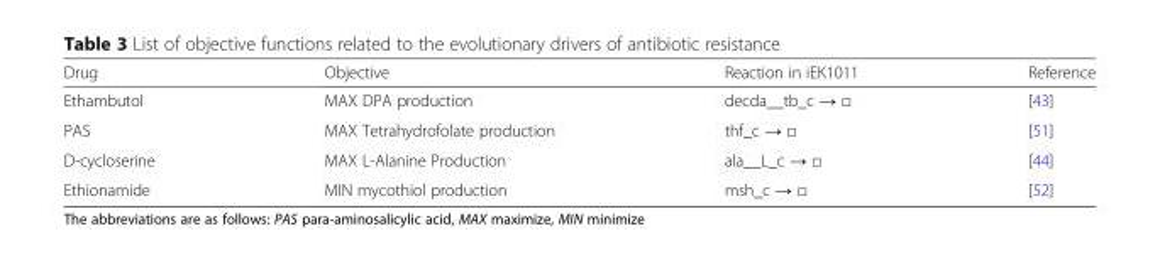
<table><thead><tr><td>Drug</td><td>Objective</td><td>Reaction in iEK1011</td><td>Reference</td></tr></thead><tbody><tr><td>Ethambutol</td><td>MAX DPA production</td><td>decda__tb_c → □</td><td>[43]</td></tr><tr><td>PAS</td><td>MAX Tetrahydrofolate production</td><td>thf_c → □</td><td>[51]</td></tr><tr><td>D-cycloserine</td><td>MAX L-Alanine Production</td><td>ala__L_c → □</td><td>[44]</td></tr><tr><td>Ethionamide</td><td>MIN mycothiol production</td><td>msh_c → □</td><td>[52]</td></tr></tbody></table>